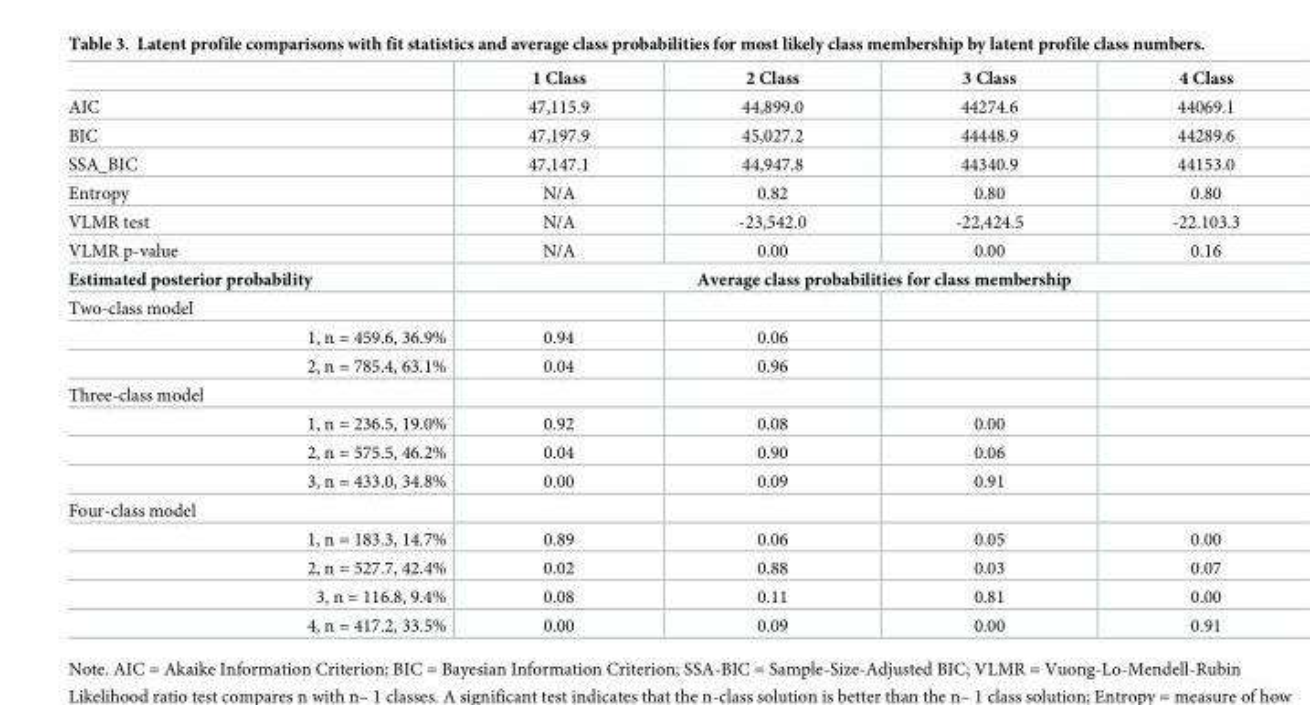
<table><thead><tr><td></td><td>1 Class</td><td>2 Class</td><td>3 Class</td><td>4 Class</td></tr></thead><tbody><tr><td>AIC</td><td>47,115.9</td><td>44,899.0</td><td>44274.6</td><td>44069.1</td></tr><tr><td>BIC</td><td>47,197.9</td><td>45,027.2</td><td>44448.9</td><td>44289.6</td></tr><tr><td>SSA_BIC</td><td>47,147.1</td><td>44,947.8</td><td>44340.9</td><td>44153.0</td></tr><tr><td>Entropy</td><td>N/A</td><td>0.82</td><td>0.80</td><td>0.80</td></tr><tr><td>VLMR test</td><td>N/A</td><td>-23,542.0</td><td>-22,424.5</td><td>-22.103.3</td></tr><tr><td>VLMR p-value</td><td>N/A</td><td>0.00</td><td>0.00</td><td>0.16</td></tr><tr><td>Estimated posterior probability</td><td colspan="4">Average class probabilities for class membership</td></tr><tr><td colspan="5">Two-class model</td></tr><tr><td>1, n = 459.6, 36.9%</td><td>0.94</td><td>0.06</td><td></td><td></td></tr><tr><td>2, n = 785.4, 63.1%</td><td>0.04</td><td>0.96</td><td></td><td></td></tr><tr><td colspan="5">Three-class model</td></tr><tr><td>1, n = 236.5, 19.0%</td><td>0.92</td><td>0.08</td><td>0.00</td><td></td></tr><tr><td>2, n = 575.5, 46.2%</td><td>0.04</td><td>0.90</td><td>0.06</td><td></td></tr><tr><td>3, n = 433.0, 34.8%</td><td>0.00</td><td>0.09</td><td>0.91</td><td></td></tr><tr><td colspan="5">Four-class model</td></tr><tr><td>1, n = 183.3, 14.7%</td><td>0.89</td><td>0.06</td><td>0.05</td><td>0.00</td></tr><tr><td>2, n = 527.7, 42.4%</td><td>0.02</td><td>0.88</td><td>0.03</td><td>0.07</td></tr><tr><td>3, n = 116.8, 9.4%</td><td>0.08</td><td>0.11</td><td>0.81</td><td>0.00</td></tr><tr><td>4, n = 417.2, 33.5%</td><td>0.00</td><td>0.09</td><td>0.00</td><td>0.91</td></tr></tbody></table>